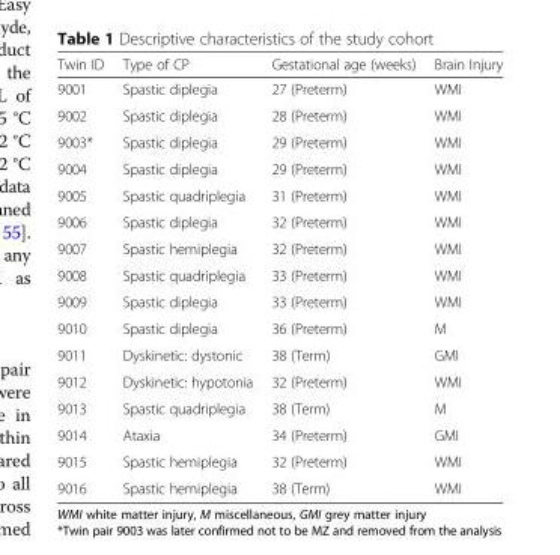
<table><thead><tr><td>Twin ID</td><td>Type of CP</td><td>Gestational age (weeks)</td><td>Brain Injury</td></tr></thead><tbody><tr><td>9001</td><td>Spastic diplegia</td><td>27 (Preterm)</td><td>WMI</td></tr><tr><td>9002</td><td>Spastic diplegia</td><td>28 (Preterm)</td><td>WMI</td></tr><tr><td>9003*</td><td>Spastic diplegia</td><td>29 (Preterm)</td><td>WMI</td></tr><tr><td>9004</td><td>Spastic diplegia</td><td>29 (Preterm)</td><td>WMI</td></tr><tr><td>9005</td><td>Spastic quadriplegia</td><td>31 (Preterm)</td><td>WMI</td></tr><tr><td>9006</td><td>Spastic diplegia</td><td>32 (Preterm)</td><td>WMI</td></tr><tr><td>9007</td><td>Spastic hemiplegia</td><td>32 (Preterm)</td><td>WMI</td></tr><tr><td>9008</td><td>Spastic quadriplegia</td><td>33 (Preterm)</td><td>WMI</td></tr><tr><td>9009</td><td>Spastic diplegia</td><td>33 (Preterm)</td><td>WMI</td></tr><tr><td>9010</td><td>Spastic diplegia</td><td>36 (Preterm)</td><td>M</td></tr><tr><td>9011</td><td>Dyskinetic: dystonic</td><td>38 (Term)</td><td>GMI</td></tr><tr><td>9012</td><td>Dyskinetic: hypotonia</td><td>32 (Preterm)</td><td>WMI</td></tr><tr><td>9013</td><td>Spastic quadriplegia</td><td>38 (Term)</td><td>M</td></tr><tr><td>9014</td><td>Ataxia</td><td>34 (Preterm)</td><td>GMI</td></tr><tr><td>9015</td><td>Spastic hemiplegia</td><td>32 (Preterm)</td><td>WMI</td></tr><tr><td>9016</td><td>Spastic hemiplegia</td><td>38 (Term)</td><td>WMI</td></tr></tbody></table>